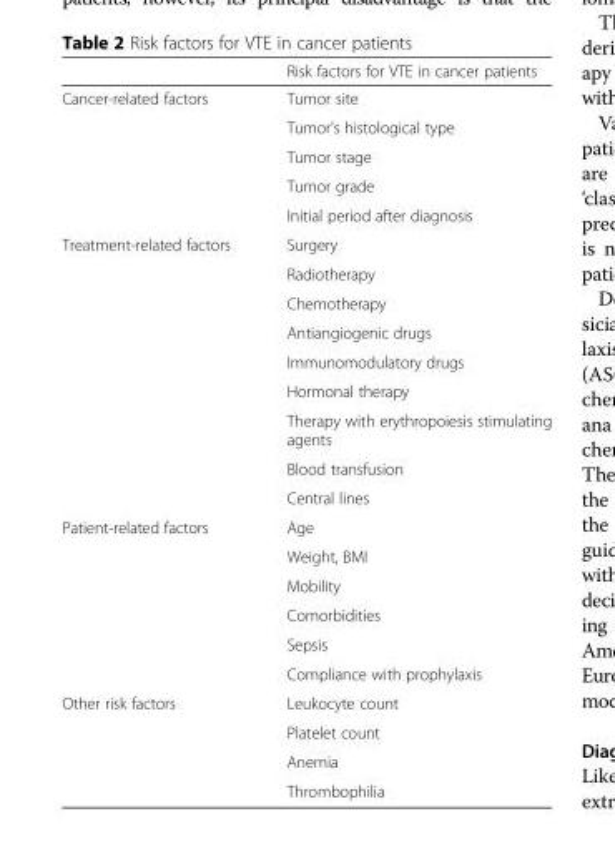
<table><thead><tr><td></td><td>Risk factors for VTE in cancer patients</td></tr></thead><tbody><tr><td rowspan="5">Cancer-related factors</td><td>Tumor site</td></tr><tr><td>Tumor’s histological type</td></tr><tr><td>Tumor stage</td></tr><tr><td>Tumor grade</td></tr><tr><td>Initial period after diagnosis</td></tr><tr><td rowspan="9">Treatment-related factors</td><td>Surgery</td></tr><tr><td>Radiotherapy</td></tr><tr><td>Chemotherapy</td></tr><tr><td>Antiangiogenic drugs</td></tr><tr><td>Immunomodulatory drugs</td></tr><tr><td>Hormonal therapy</td></tr><tr><td>Therapy with erythropoiesis stimulating agents</td></tr><tr><td>Blood transfusion</td></tr><tr><td>Central lines</td></tr><tr><td rowspan="6">Patient-related factors</td><td>Age</td></tr><tr><td>Weight, BMI</td></tr><tr><td>Mobility</td></tr><tr><td>Comorbidities</td></tr><tr><td>Sepsis</td></tr><tr><td>Compliance with prophylaxis</td></tr><tr><td rowspan="4">Other risk factors</td><td>Leukocyte count</td></tr><tr><td>Platelet count</td></tr><tr><td>Anemia</td></tr><tr><td>Thrombophilia</td></tr></tbody></table>